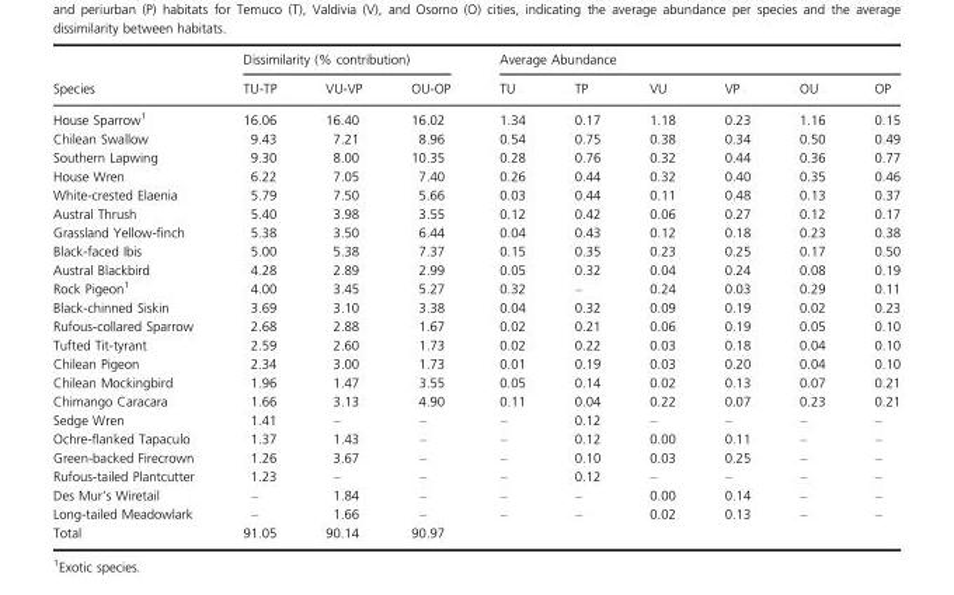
<table><thead><tr><td rowspan="2">Species</td><td colspan="3">Dissimilarity (% contribution)</td><td colspan="6">Average Abundance</td></tr><tr><td>TU-TP</td><td>VU-VP</td><td>OU-OP</td><td>TU</td><td>TP</td><td>VU</td><td>VP</td><td>OU</td><td>OP</td></tr></thead><tbody><tr><td>House Sparrow1</td><td>16.06</td><td>16.40</td><td>16.02</td><td>1.34</td><td>0.17</td><td>1.18</td><td>0.23</td><td>1.16</td><td>0.15</td></tr><tr><td>Chilean Swallow</td><td>9.43</td><td>7.21</td><td>8.96</td><td>0.54</td><td>0.75</td><td>0.38</td><td>0.34</td><td>0.50</td><td>0.49</td></tr><tr><td>Southern Lapwing</td><td>9.30</td><td>8.00</td><td>10.35</td><td>0.28</td><td>0.76</td><td>0.32</td><td>0.44</td><td>0.36</td><td>0.77</td></tr><tr><td>House Wren</td><td>6.22</td><td>7.05</td><td>7.40</td><td>0.26</td><td>0.44</td><td>0.32</td><td>0.40</td><td>0.35</td><td>0.46</td></tr><tr><td>White-crested Elaenia</td><td>5.79</td><td>7.50</td><td>5.66</td><td>0.03</td><td>0.44</td><td>0.11</td><td>0.48</td><td>0.13</td><td>0.37</td></tr><tr><td>Austral Thrush</td><td>5.40</td><td>3.98</td><td>3.55</td><td>0.12</td><td>0.42</td><td>0.06</td><td>0.27</td><td>0.12</td><td>0.17</td></tr><tr><td>Grassland Yellow-finch</td><td>5.38</td><td>3.50</td><td>6.44</td><td>0.04</td><td>0.43</td><td>0.12</td><td>0.18</td><td>0.23</td><td>0.38</td></tr><tr><td>Black-faced Ibis</td><td>5.00</td><td>5.38</td><td>7.37</td><td>0.15</td><td>0.35</td><td>0.23</td><td>0.25</td><td>0.17</td><td>0.50</td></tr><tr><td>Austral Blackbird</td><td>4.28</td><td>2.89</td><td>2.99</td><td>0.05</td><td>0.32</td><td>0.04</td><td>0.24</td><td>0.08</td><td>0.19</td></tr><tr><td>Rock Pigeon1</td><td>4.00</td><td>3.45</td><td>5.27</td><td>0.32</td><td>–</td><td>0.24</td><td>0.03</td><td>0.29</td><td>0.11</td></tr><tr><td>Black-chinned Siskin</td><td>3.69</td><td>3.10</td><td>3.38</td><td>0.04</td><td>0.32</td><td>0.09</td><td>0.19</td><td>0.02</td><td>0.23</td></tr><tr><td>Rufous-collared Sparrow</td><td>2.68</td><td>2.88</td><td>1.67</td><td>0.02</td><td>0.21</td><td>0.06</td><td>0.19</td><td>0.05</td><td>0.10</td></tr><tr><td>Tufted Tit-tyrant</td><td>2.59</td><td>2.60</td><td>1.73</td><td>0.02</td><td>0.22</td><td>0.03</td><td>0.18</td><td>0.04</td><td>0.10</td></tr><tr><td>Chilean Pigeon</td><td>2.34</td><td>3.00</td><td>1.73</td><td>0.01</td><td>0.19</td><td>0.03</td><td>0.20</td><td>0.04</td><td>0.10</td></tr><tr><td>Chilean Mockingbird</td><td>1.96</td><td>1.47</td><td>3.55</td><td>0.05</td><td>0.14</td><td>0.02</td><td>0.13</td><td>0.07</td><td>0.21</td></tr><tr><td>Chimango Caracara</td><td>1.66</td><td>3.13</td><td>4.90</td><td>0.11</td><td>0.04</td><td>0.22</td><td>0.07</td><td>0.23</td><td>0.21</td></tr><tr><td>Sedge Wren</td><td>1.41</td><td>–</td><td>–</td><td>–</td><td>0.12</td><td>–</td><td>–</td><td>–</td><td>–</td></tr><tr><td>Ochre-flanked Tapaculo</td><td>1.37</td><td>1.43</td><td>–</td><td>–</td><td>0.12</td><td>0.00</td><td>0.11</td><td>–</td><td>–</td></tr><tr><td>Green-backed Firecrown</td><td>1.26</td><td>3.67</td><td>–</td><td>–</td><td>0.10</td><td>0.03</td><td>0.25</td><td>–</td><td>–</td></tr><tr><td>Rufous-tailed Plantcutter</td><td>1.23</td><td>–</td><td>–</td><td>–</td><td>0.12</td><td>–</td><td>–</td><td>–</td><td>–</td></tr><tr><td>Des Mur’s Wiretail</td><td>–</td><td>1.84</td><td>–</td><td>–</td><td>–</td><td>0.00</td><td>0.14</td><td>–</td><td>–</td></tr><tr><td>Long-tailed Meadowlark</td><td>–</td><td>1.66</td><td>–</td><td>–</td><td>–</td><td>0.02</td><td>0.13</td><td>–</td><td>–</td></tr><tr><td>Total</td><td>91.05</td><td>90.14</td><td>90.97</td><td></td><td></td><td></td><td></td><td></td><td></td></tr></tbody></table>